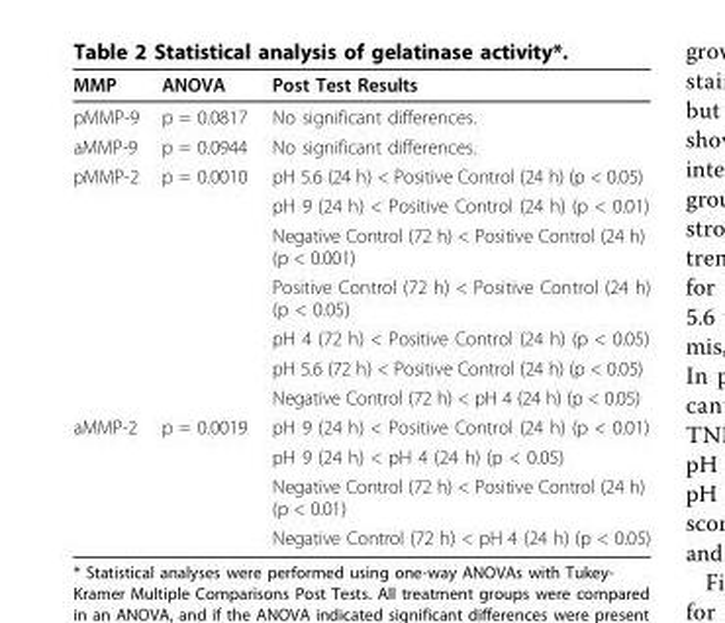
<table><thead><tr><td>MMP</td><td>ANOVA</td><td>Post Test Results</td></tr></thead><tbody><tr><td>pMMP-9</td><td>p = 0.0817</td><td>No significant differences.</td></tr><tr><td>aMMP-9</td><td>p = 0.0944</td><td>No significant differences.</td></tr><tr><td rowspan="7">pMMP-2</td><td>p = 0.0010</td><td>pH 5.6 (24 h) &lt; Positive Control (24 h) (p &lt; 0.05)</td></tr><tr><td></td><td>pH 9 (24 h) &lt; Positive Control (24 h) (p &lt; 0.01)</td></tr><tr><td></td><td>Negative Control (72 h) &lt; Positive Control (24 h) (p &lt; 0.001)</td></tr><tr><td></td><td>Positive Control (72 h) &lt; Positive Control (24 h) (p &lt; 0.05)</td></tr><tr><td></td><td>pH 4 (72 h) &lt; Positive Control (24 h) (p &lt; 0.05)</td></tr><tr><td></td><td>pH 5.6 (72 h) &lt; Positive Control (24 h) (p &lt; 0.05)</td></tr><tr><td></td><td>Negative Control (72 h) &lt; pH 4 (24 h) (p &lt; 0.05)</td></tr><tr><td rowspan="4">aMMP-2</td><td>p = 0.0019</td><td>pH 9 (24 h) &lt; Positive Control (24 h) (p &lt; 0.01)</td></tr><tr><td></td><td>pH 9 (24 h) &lt; pH 4 (24 h) (p &lt; 0.05)</td></tr><tr><td></td><td>Negative Control (72 h) &lt; Positive Control (24 h) (p &lt; 0.01)</td></tr><tr><td></td><td>Negative Control (72 h) &lt; pH 4 (24 h) (p &lt; 0.05)</td></tr></tbody></table>